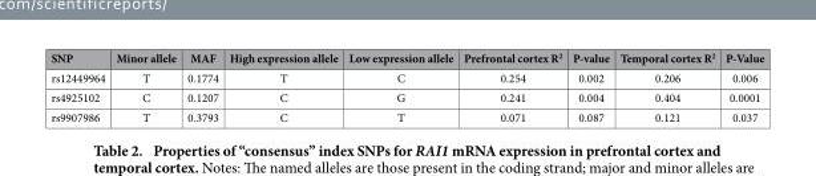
<table><thead><tr><td>SNP</td><td>Minor allele</td><td>MAF</td><td>High expression allele</td><td>Low expression allele</td><td>Prefrontal cortex R<sup>2</sup></td><td>P-value</td><td>Temporal cortex R<sup>2</sup></td><td>P-Value</td></tr></thead><tbody><tr><td>rs12449964</td><td>T</td><td>0.1774</td><td>T</td><td>C</td><td>0.254</td><td>0.002</td><td>0.206</td><td>0.006</td></tr><tr><td>rs4925102</td><td>C</td><td>0.1207</td><td>C</td><td>G</td><td>0.241</td><td>0.004</td><td>0.404</td><td>0.0001</td></tr><tr><td>rs9907986</td><td>T</td><td>0.3793</td><td>C</td><td>T</td><td>0.071</td><td>0.087</td><td>0.121</td><td>0.037</td></tr></tbody></table>